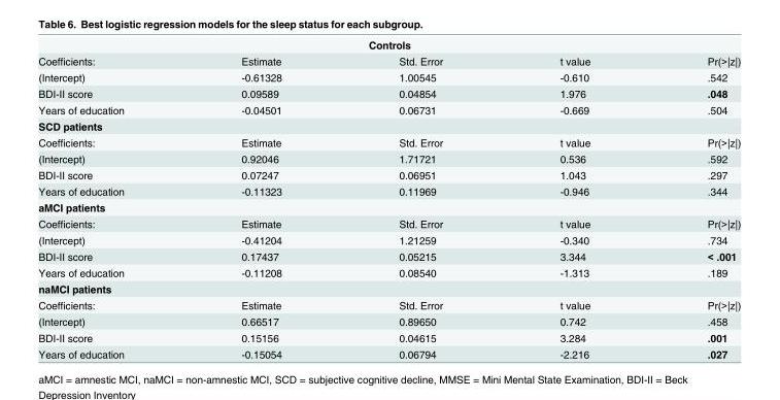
<table><tbody><tr><td colspan="5">Controls</td></tr><tr><td>Coefficients:</td><td>Estimate</td><td>Std. Error</td><td>t value</td><td>Pr(&gt;|z|)</td></tr><tr><td>(Intercept)</td><td>-0.61328</td><td>1.00545</td><td>-0.610</td><td>.542</td></tr><tr><td>BDI-II score</td><td>0.09589</td><td>0.04854</td><td>1.976</td><td>.048</td></tr><tr><td>Years of education</td><td>-0.04501</td><td>0.06731</td><td>-0.669</td><td>.504</td></tr><tr><td colspan="5">SCD patients</td></tr><tr><td>Coefficients:</td><td>Estimate</td><td>Std. Error</td><td>t value</td><td>Pr(&gt;|z|)</td></tr><tr><td>(Intercept)</td><td>0.92046</td><td>1.71721</td><td>0.536</td><td>.592</td></tr><tr><td>BDI-II score</td><td>0.07247</td><td>0.06951</td><td>1.043</td><td>.297</td></tr><tr><td>Years of education</td><td>-0.11323</td><td>0.11969</td><td>-0.946</td><td>.344</td></tr><tr><td colspan="5">aMCI patients</td></tr><tr><td>Coefficients:</td><td>Estimate</td><td>Std. Error</td><td>t value</td><td>Pr(&gt;|z|)</td></tr><tr><td>(Intercept)</td><td>-0.41204</td><td>1.21259</td><td>-0.340</td><td>.734</td></tr><tr><td>BDI-II score</td><td>0.17437</td><td>0.05215</td><td>3.344</td><td>&lt; .001</td></tr><tr><td>Years of education</td><td>-0.11208</td><td>0.08540</td><td>-1.313</td><td>.189</td></tr><tr><td colspan="5">naMCI patients</td></tr><tr><td>Coefficients:</td><td>Estimate</td><td>Std. Error</td><td>t value</td><td>Pr(&gt;|z|)</td></tr><tr><td>(Intercept)</td><td>0.66517</td><td>0.89650</td><td>0.742</td><td>.458</td></tr><tr><td>BDI-II score</td><td>0.15156</td><td>0.04615</td><td>3.284</td><td>.001</td></tr><tr><td>Years of education</td><td>-0.15054</td><td>0.06794</td><td>-2.216</td><td>.027</td></tr></tbody></table>